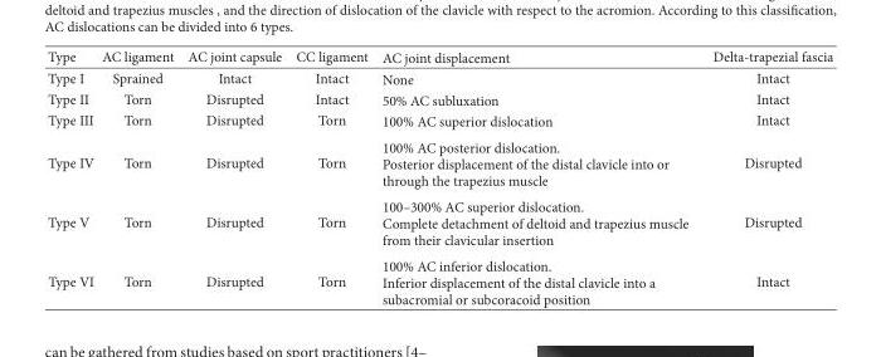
<table><thead><tr><td>Type</td><td>AC ligament</td><td>AC joint capsule</td><td>CC ligament</td><td>AC joint displacement</td><td>Delta-trapezial fascia</td></tr></thead><tbody><tr><td>Type I</td><td>Sprained</td><td>Intact</td><td>Intact</td><td>None</td><td>Intact</td></tr><tr><td>Type II</td><td>Torn</td><td>Disrupted</td><td>Intact</td><td>50% AC subluxation</td><td>Intact</td></tr><tr><td>Type III</td><td>Torn</td><td>Disrupted</td><td>Torn</td><td>100% AC superior dislocation</td><td>Intact</td></tr><tr><td>Type IV</td><td>Torn</td><td>Disrupted</td><td>Torn</td><td>100% AC posterior dislocation. Posterior displacement of the distal clavicle into or through the trapezius muscle</td><td>Disrupted</td></tr><tr><td>Type V</td><td>Torn</td><td>Disrupted</td><td>Torn</td><td>100–300% AC superior dislocation. Complete detachment of deltoid and trapezius muscle from their clavicular insertion</td><td>Disrupted</td></tr><tr><td>Type VI</td><td>Torn</td><td>Disrupted</td><td>Torn</td><td>100% AC inferior dislocation. Inferior displacement of the distal clavicle into a subacromial or subcoracoid position</td><td>Intact</td></tr></tbody></table>